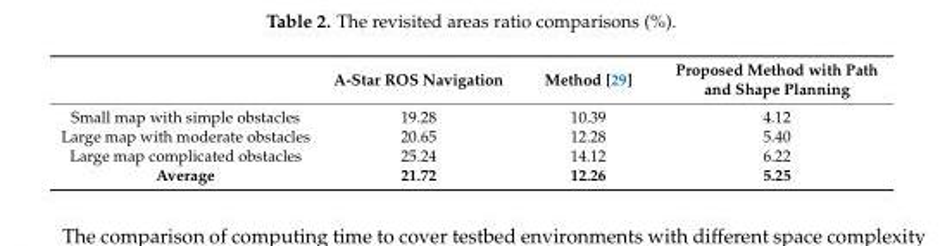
<table><thead><tr><td></td><td>A-Star ROS Navigation</td><td>Method [29]</td><td>Proposed Method with Path and Shape Planning</td></tr></thead><tbody><tr><td>Small map with simple obstacles</td><td>19.28</td><td>10.39</td><td>4.12</td></tr><tr><td>Large map with moderate obstacles</td><td>20.65</td><td>12.28</td><td>5.40</td></tr><tr><td>Large map complicated obstacles</td><td>25.24</td><td>14.12</td><td>6.22</td></tr><tr><td>Average</td><td>21.72</td><td>12.26</td><td>5.25</td></tr></tbody></table>